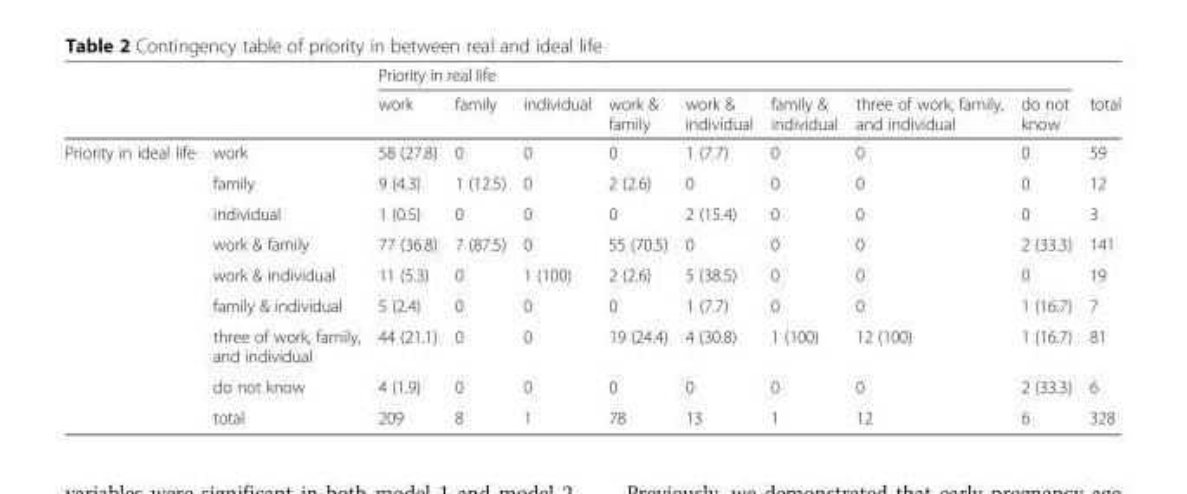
<table><thead><tr><td rowspan="2"></td><td rowspan="2"></td><td colspan="8">Priority in real life</td><td rowspan="2">total</td></tr><tr><td>work</td><td>family</td><td>individual</td><td>work &amp; family</td><td>work &amp; individual</td><td>family &amp; individual</td><td>three of work, family, and individual</td><td>do not know</td></tr></thead><tbody><tr><td rowspan="9">Priority in ideal life</td><td>work</td><td>58 (27.8)</td><td>0</td><td>0</td><td>0</td><td>1 (7.7)</td><td>0</td><td>0</td><td>0</td><td>59</td></tr><tr><td>family</td><td>9 (4.3)</td><td>1 (12.5)</td><td>0</td><td>2 (2.6)</td><td>0</td><td>0</td><td>0</td><td>0</td><td>12</td></tr><tr><td>individual</td><td>1 (0.5)</td><td>0</td><td>0</td><td>0</td><td>2 (15.4)</td><td>0</td><td>0</td><td>0</td><td>3</td></tr><tr><td>work &amp; family</td><td>77 (36.8)</td><td>7 (87.5)</td><td>0</td><td>55 (70.5)</td><td>0</td><td>0</td><td>0</td><td>2 (33.3)</td><td>141</td></tr><tr><td>work &amp; individual</td><td>11 (5.3)</td><td>0</td><td>1 (100)</td><td>2 (2.6)</td><td>5 (38.5)</td><td>0</td><td>0</td><td>0</td><td>19</td></tr><tr><td>family &amp; individual</td><td>5 (2.4)</td><td>0</td><td>0</td><td>0</td><td>1 (7.7)</td><td>0</td><td>0</td><td>1 (16.7)</td><td>7</td></tr><tr><td>three of work, family, and individual</td><td>44 (21.1)</td><td>0</td><td>0</td><td>19 (24.4)</td><td>4 (30.8)</td><td>1 (100)</td><td>12 (100)</td><td>1 (16.7)</td><td>81</td></tr><tr><td>do not know</td><td>4 (1.9)</td><td>0</td><td>0</td><td>0</td><td>0</td><td>0</td><td>0</td><td>2 (33.3)</td><td>6</td></tr><tr><td>total</td><td>209</td><td>8</td><td>1</td><td>78</td><td>13</td><td>1</td><td>12</td><td>6</td><td>328</td></tr></tbody></table>